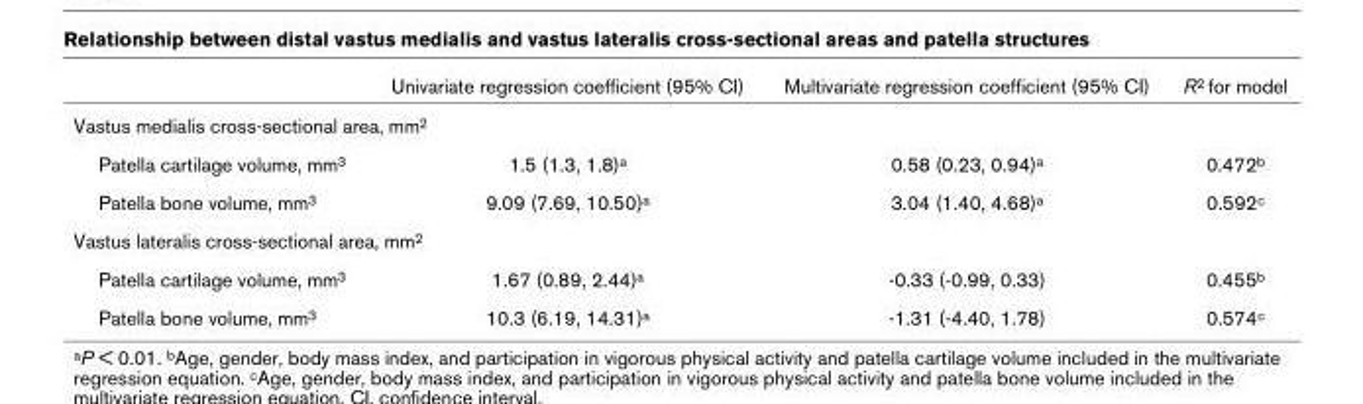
<table><thead><tr><td></td><td>Univariate regression coefficient (95% CI)</td><td>Multivariate regression coefficient (95% CI)</td><td>R<sup>2</sup> for model</td></tr></thead><tbody><tr><td colspan="4">Vastus medialis cross-sectional area, mm<sup>2</sup></td></tr><tr><td>Patella cartilage volume, mm<sup>3</sup></td><td>1.5 (1.3, 1.8)<sup>a</sup></td><td>0.58 (0.23, 0.94)<sup>a</sup></td><td>0.472<sup>b</sup></td></tr><tr><td>Patella bone volume, mm<sup>3</sup></td><td>9.09 (7.69, 10.50)<sup>a</sup></td><td>3.04 (1.40, 4.68)<sup>a</sup></td><td>0.592<sup>c</sup></td></tr><tr><td colspan="4">Vastus lateralis cross-sectional area, mm<sup>2</sup></td></tr><tr><td>Patella cartilage volume, mm<sup>3</sup></td><td>1.67 (0.89, 2.44)<sup>a</sup></td><td>-0.33 (-0.99, 0.33)</td><td>0.455<sup>b</sup></td></tr><tr><td>Patella bone volume, mm<sup>3</sup></td><td>10.3 (6.19, 14.31)<sup>a</sup></td><td>-1.31 (-4.40, 1.78)</td><td>0.574<sup>c</sup></td></tr></tbody></table>